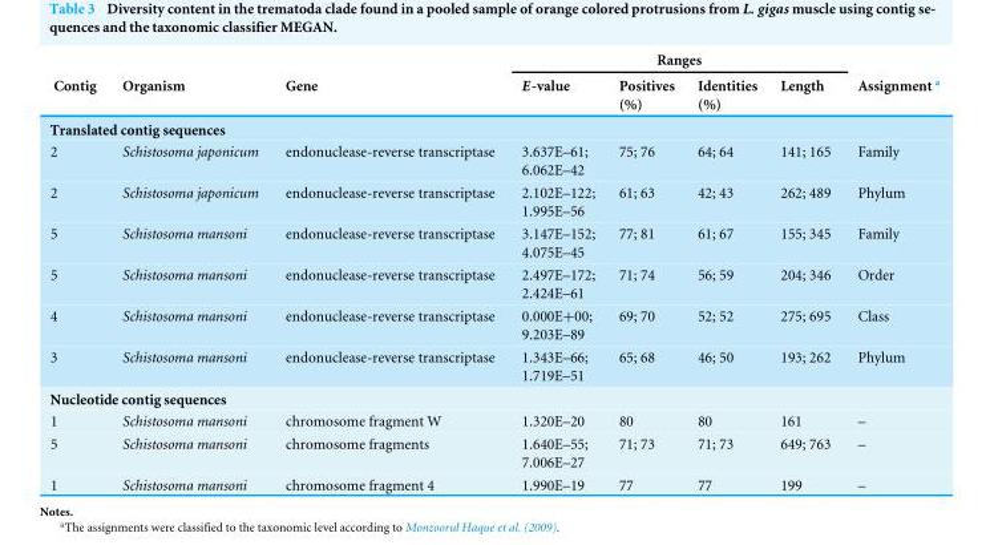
<table><thead><tr><td rowspan="2">Contig</td><td rowspan="2">Organism</td><td rowspan="2">Gene</td><td colspan="4">Ranges</td><td rowspan="2">Assignment <sup>a</sup></td></tr><tr><td>E-value</td><td>Positives (%)</td><td>Identities (%)</td><td>Length</td></tr></thead><tbody><tr><td colspan="8">Translated contig sequences</td></tr><tr><td>2</td><td>Schistosoma japonicum</td><td>endonuclease-reverse transcriptase</td><td>3.637E–61; 6.062E–42</td><td>75; 76</td><td>64; 64</td><td>141; 165</td><td>Family</td></tr><tr><td>2</td><td>Schistosoma japonicum</td><td>endonuclease-reverse transcriptase</td><td>2.102E–122; 1.995E–56</td><td>61; 63</td><td>42; 43</td><td>262; 489</td><td>Phylum</td></tr><tr><td>5</td><td>Schistosoma mansoni</td><td>endonuclease-reverse transcriptase</td><td>3.147E–152; 4.075E–45</td><td>77; 81</td><td>61; 67</td><td>155; 345</td><td>Family</td></tr><tr><td>5</td><td>Schistosoma mansoni</td><td>endonuclease-reverse transcriptase</td><td>2.497E–172; 2.424E–61</td><td>71; 74</td><td>56; 59</td><td>204; 346</td><td>Order</td></tr><tr><td>4</td><td>Schistosoma mansoni</td><td>endonuclease-reverse transcriptase</td><td>0.000E+00; 9.203E–89</td><td>69; 70</td><td>52; 52</td><td>275; 695</td><td>Class</td></tr><tr><td>3</td><td>Schistosoma mansoni</td><td>endonuclease-reverse transcriptase</td><td>1.343E–66; 1.719E–51</td><td>65; 68</td><td>46; 50</td><td>193; 262</td><td>Phylum</td></tr><tr><td colspan="8">Nucleotide contig sequences</td></tr><tr><td>1</td><td>Schistosoma mansoni</td><td>chromosome fragment W</td><td>1.320E–20</td><td>80</td><td>80</td><td>161</td><td>–</td></tr><tr><td>5</td><td>Schistosoma mansoni</td><td>chromosome fragments</td><td>1.640E–55; 7.006E–27</td><td>71; 73</td><td>71; 73</td><td>649; 763</td><td>–</td></tr><tr><td>1</td><td>Schistosoma mansoni</td><td>chromosome fragment 4</td><td>1.990E–19</td><td>77</td><td>77</td><td>199</td><td>–</td></tr></tbody></table>